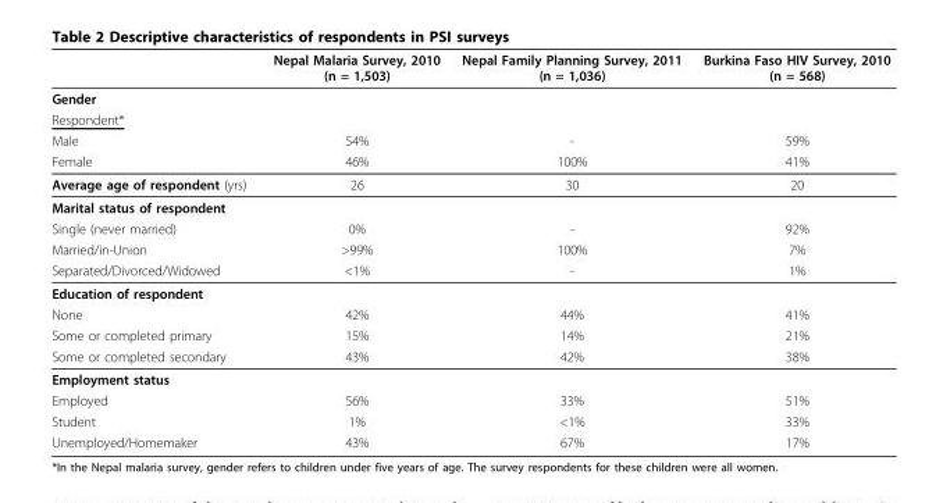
<table><thead><tr><td></td><td>Nepal Malaria Survey, 2010 (n = 1,503)</td><td>Nepal Family Planning Survey, 2011 (n = 1,036)</td><td>Burkina Faso HIV Survey, 2010 (n = 568)</td></tr></thead><tbody><tr><td colspan="4">Gender</td></tr><tr><td colspan="4">Respondent*</td></tr><tr><td>Male</td><td>54%</td><td>-</td><td>59%</td></tr><tr><td>Female</td><td>46%</td><td>100%</td><td>41%</td></tr><tr><td>Average age of respondent (yrs)</td><td>26</td><td>30</td><td>20</td></tr><tr><td colspan="4">Marital status of respondent</td></tr><tr><td>Single (never married)</td><td>0%</td><td>-</td><td>92%</td></tr><tr><td>Married/in-Union</td><td>&gt;99%</td><td>100%</td><td>7%</td></tr><tr><td>Separated/Divorced/Widowed</td><td>&lt;1%</td><td>-</td><td>1%</td></tr><tr><td colspan="4">Education of respondent</td></tr><tr><td>None</td><td>42%</td><td>44%</td><td>41%</td></tr><tr><td>Some or completed primary</td><td>15%</td><td>14%</td><td>21%</td></tr><tr><td>Some or completed secondary</td><td>43%</td><td>42%</td><td>38%</td></tr><tr><td colspan="4">Employment status</td></tr><tr><td>Employed</td><td>56%</td><td>33%</td><td>51%</td></tr><tr><td>Student</td><td>1%</td><td>&lt;1%</td><td>33%</td></tr><tr><td>Unemployed/Homemaker</td><td>43%</td><td>67%</td><td>17%</td></tr></tbody></table>